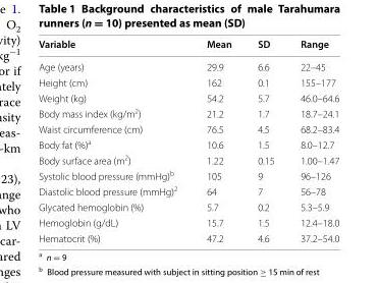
<table><thead><tr><td>Variable</td><td>Mean</td><td>SD</td><td>Range</td></tr></thead><tbody><tr><td>Age (years)</td><td>29.9</td><td>6.6</td><td>22–45</td></tr><tr><td>Height (cm)</td><td>162</td><td>0.1</td><td>155–177</td></tr><tr><td>Weight (kg)</td><td>54.2</td><td>5.7</td><td>46.0–64.6</td></tr><tr><td>Body mass index (kg/m<sup>2</sup>)</td><td>21.2</td><td>1.7</td><td>18.7–24.1</td></tr><tr><td>Waist circumference (cm)</td><td>76.5</td><td>4.5</td><td>68.2–83.4</td></tr><tr><td>Body fat (%)<sup>a</sup></td><td>10.6</td><td>1.5</td><td>8.0–12.7</td></tr><tr><td>Body surface area (m<sup>2</sup>)</td><td>1.22</td><td>0.15</td><td>1.00–1.47</td></tr><tr><td>Systolic blood pressure (mmHg)<sup>b</sup></td><td>105</td><td>9</td><td>96–126</td></tr><tr><td>Diastolic blood pressure (mmHg)<sup>2</sup></td><td>64</td><td>7</td><td>56–78</td></tr><tr><td>Glycated hemoglobin (%)</td><td>5.7</td><td>0.2</td><td>5.3–5.9</td></tr><tr><td>Hemoglobin (g/dL)</td><td>15.7</td><td>1.5</td><td>12.4–18.0</td></tr><tr><td>Hematocrit (%)</td><td>47.2</td><td>4.6</td><td>37.2–54.0</td></tr></tbody></table>